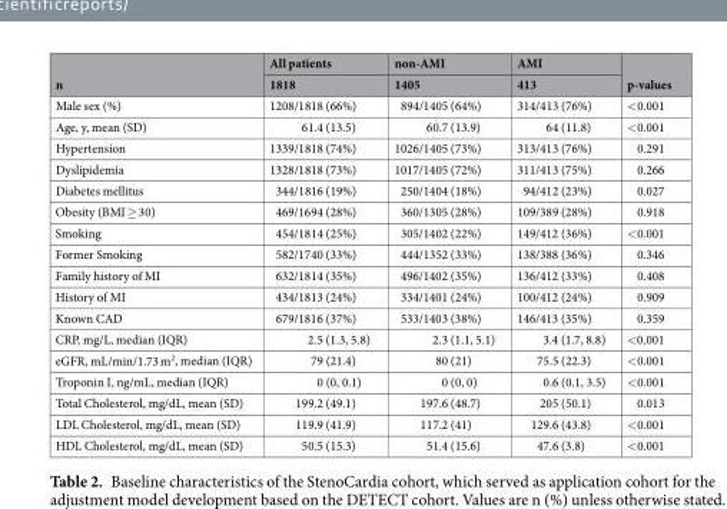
<table><thead><tr><td rowspan="2">n</td><td rowspan="2">All patients 1818</td><td rowspan="2">non-AMI 1405</td><td rowspan="2">AMI 413</td><td rowspan="2">p-values</td></tr><tr></tr></thead><tbody><tr><td>Male sex (%)</td><td>1208/1818 (66%)</td><td>894/1405 (64%)</td><td>314/413 (76%)</td><td>&lt;0.001</td></tr><tr><td>Age, y, mean (SD)</td><td>61.4 (13.5)</td><td>60.7 (13.9)</td><td>64 (11.8)</td><td>&lt;0.001</td></tr><tr><td>Hypertension</td><td>1339/1818 (74%)</td><td>1026/1405 (73%)</td><td>313/413 (76%)</td><td>0.291</td></tr><tr><td>Dyslipidemia</td><td>1328/1818 (73%)</td><td>1017/1405 (72%)</td><td>311/413 (75%)</td><td>0.266</td></tr><tr><td>Diabetes mellitus</td><td>344/1816 (19%)</td><td>250/1404 (18%)</td><td>94/412 (23%)</td><td>0.027</td></tr><tr><td>Obesity (BMI ≥ 30)</td><td>469/1694 (28%)</td><td>360/1305 (28%)</td><td>109/389 (28%)</td><td>0.918</td></tr><tr><td>Smoking</td><td>454/1814 (25%)</td><td>305/1402 (22%)</td><td>149/412 (36%)</td><td>&lt;0.001</td></tr><tr><td>Former Smoking</td><td>582/1740 (33%)</td><td>444/1352 (33%)</td><td>138/388 (36%)</td><td>0.346</td></tr><tr><td>Family history of MI</td><td>632/1814 (35%)</td><td>496/1402 (35%)</td><td>136/412 (33%)</td><td>0.408</td></tr><tr><td>History of MI</td><td>434/1813 (24%)</td><td>334/1401 (24%)</td><td>100/412 (24%)</td><td>0.909</td></tr><tr><td>Known CAD</td><td>679/1816 (37%)</td><td>533/1403 (38%)</td><td>146/413 (35%)</td><td>0.359</td></tr><tr><td>CRP, mg/L, median (IQR)</td><td>2.5 (1.3, 5.8)</td><td>2.3 (1.1, 5.1)</td><td>3.4 (1.7, 8.8)</td><td>&lt;0.001</td></tr><tr><td>eGFR, mL/min/1.73 m<sup>2</sup>, median (IQR)</td><td>79 (21.4)</td><td>80 (21)</td><td>75.5 (22.3)</td><td>&lt;0.001</td></tr><tr><td>Troponin I, ng/mL, median (IQR)</td><td>0 (0, 0.1)</td><td>0 (0, 0)</td><td>0.6 (0.1, 3.5)</td><td>&lt;0.001</td></tr><tr><td>Total Cholesterol, mg/dL, mean (SD)</td><td>199.2 (49.1)</td><td>197.6 (48.7)</td><td>205 (50.1)</td><td>0.013</td></tr><tr><td>LDL Cholesterol, mg/dL, mean (SD)</td><td>119.9 (41.9)</td><td>117.2 (41)</td><td>129.6 (43.8)</td><td>&lt;0.001</td></tr><tr><td>HDL Cholesterol, mg/dL, mean (SD)</td><td>50.5 (15.3)</td><td>51.4 (15.6)</td><td>47.6 (3.8)</td><td>&lt;0.001</td></tr></tbody></table>